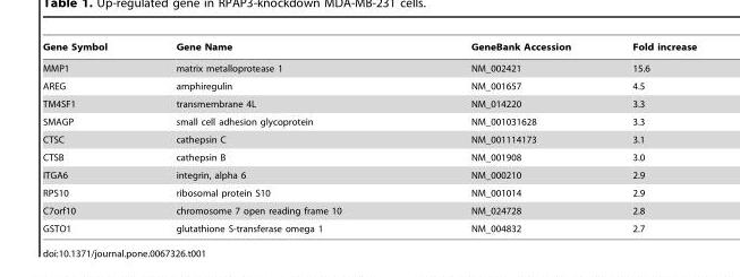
<table><thead><tr><td>Gene Symbol</td><td>Gene Name</td><td>GeneBank Accession</td><td>Fold increase</td></tr></thead><tbody><tr><td>MMP1</td><td>matrix metalloprotease 1</td><td>NM_002421</td><td>15.6</td></tr><tr><td>AREG</td><td>amphiregulin</td><td>NM_001657</td><td>4.5</td></tr><tr><td>TM4SF1</td><td>transmembrane 4L</td><td>NM_014220</td><td>3.3</td></tr><tr><td>SMAGP</td><td>small cell adhesion glycoprotein</td><td>NM_001031628</td><td>3.3</td></tr><tr><td>CTSC</td><td>cathepsin C</td><td>NM_001114173</td><td>3.1</td></tr><tr><td>CTSB</td><td>cathepsin B</td><td>NM_001908</td><td>3.0</td></tr><tr><td>ITGA6</td><td>integrin, alpha 6</td><td>NM_000210</td><td>2.9</td></tr><tr><td>RPS10</td><td>ribosomal protein S10</td><td>NM_001014</td><td>2.9</td></tr><tr><td>C7orf10</td><td>chromosome 7 open reading frame 10</td><td>NM_024728</td><td>2.8</td></tr><tr><td>GSTO1</td><td>glutathione S-transferase omega 1</td><td>NM_004832</td><td>2.7</td></tr></tbody></table>